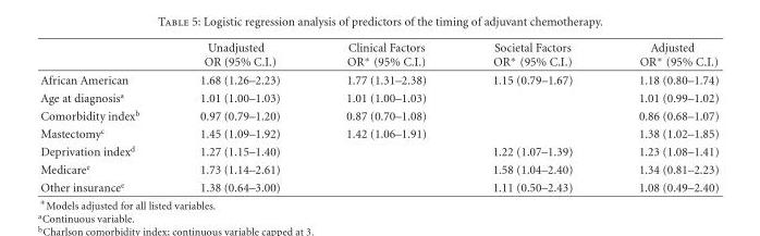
<table><thead><tr><td></td><td>Unadjusted OR (95% C.I.)</td><td>Clinical Factors OR∗ (95% C.I.)</td><td>Societal Factors OR∗ (95% C.I.)</td><td>Adjusted OR∗ (95% C.I.)</td></tr></thead><tbody><tr><td>African American</td><td>1.68 (1.26–2.23)</td><td>1.77 (1.31–2.38)</td><td>1.15 (0.79–1.67)</td><td>1.18 (0.80–1.74)</td></tr><tr><td>Age at diagnosis<sup>a</sup></td><td>1.01 (1.00–1.03)</td><td>1.01 (1.00–1.03)</td><td></td><td>1.01 (0.99–1.02)</td></tr><tr><td>Comorbidity index<sup>b</sup></td><td>0.97 (0.79–1.20)</td><td>0.87 (0.70–1.08)</td><td></td><td>0.86 (0.68–1.07)</td></tr><tr><td>Mastectomy<sup>c</sup></td><td>1.45 (1.09–1.92)</td><td>1.42 (1.06–1.91)</td><td></td><td>1.38 (1.02–1.85)</td></tr><tr><td>Deprivation index<sup>d</sup></td><td>1.27 (1.15–1.40)</td><td></td><td>1.22 (1.07–1.39)</td><td>1.23 (1.08–1.41)</td></tr><tr><td>Medicare<sup>e</sup></td><td>1.73 (1.14–2.61)</td><td></td><td>1.58 (1.04–2.40)</td><td>1.34 (0.81–2.23)</td></tr><tr><td>Other insurance<sup>e</sup></td><td>1.38 (0.64–3.00)</td><td></td><td>1.11 (0.50–2.43)</td><td>1.08 (0.49–2.40)</td></tr></tbody></table>